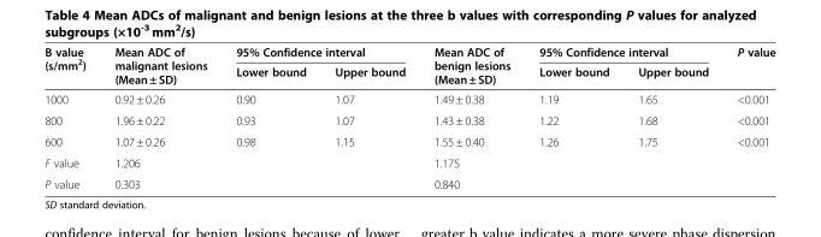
<table><thead><tr><td rowspan="2">B value (s/mm<sup>2</sup>)</td><td rowspan="2">Mean ADC of malignant lesions (Mean ± SD)</td><td colspan="2">95% Confidence interval</td><td rowspan="2">Mean ADC of benign lesions (Mean ± SD)</td><td colspan="2">95% Confidence interval</td><td rowspan="2">P value</td></tr><tr><td>Lower bound</td><td>Upper bound</td><td>Lower bound</td><td>Upper bound</td></tr></thead><tbody><tr><td>1000</td><td>0.92 ± 0.26</td><td>0.90</td><td>1.07</td><td>1.49 ± 0.38</td><td>1.19</td><td>1.65</td><td>&lt;0.001</td></tr><tr><td>800</td><td>1.96 ± 0.22</td><td>0.93</td><td>1.07</td><td>1.43 ± 0.38</td><td>1.22</td><td>1.68</td><td>&lt;0.001</td></tr><tr><td>600</td><td>1.07 ± 0.26</td><td>0.98</td><td>1.15</td><td>1.55 ± 0.40</td><td>1.26</td><td>1.75</td><td>&lt;0.001</td></tr><tr><td>F value</td><td>1.206</td><td></td><td></td><td>1.175</td><td></td><td></td><td></td></tr><tr><td>P value</td><td>0.303</td><td></td><td></td><td>0.840</td><td></td><td></td><td></td></tr></tbody></table>